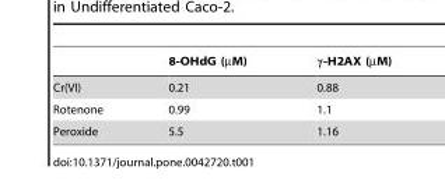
<table><thead><tr><td></td><td>8-OHdG (µM)</td><td>γ-H2AX (µM)</td></tr></thead><tbody><tr><td>Cr(VI)</td><td>0.21</td><td>0.88</td></tr><tr><td>Rotenone</td><td>0.99</td><td>1.1</td></tr><tr><td>Peroxide</td><td>5.5</td><td>1.16</td></tr></tbody></table>